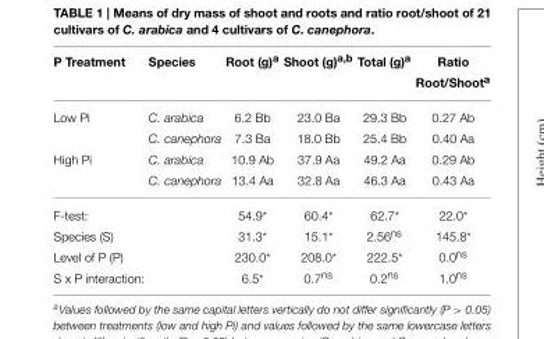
<table><thead><tr><td>P Treatment</td><td>Species</td><td>Root (g)<sup>a</sup></td><td>Shoot (g)<sup>a,b</sup></td><td>Total (g)<sup>a</sup></td><td>Ratio Root/Shoot<sup>a</sup></td></tr></thead><tbody><tr><td rowspan="2">Low Pi</td><td>C. arabica</td><td>6.2 Bb</td><td>23.0 Ba</td><td>29.3 Bb</td><td>0.27 Ab</td></tr><tr><td>C. canephora</td><td>7.3 Ba</td><td>18.0 Bb</td><td>25.4 Bb</td><td>0.40 Aa</td></tr><tr><td rowspan="2">High Pi</td><td>C. arabica</td><td>10.9 Ab</td><td>37.9 Aa</td><td>49.2 Aa</td><td>0.29 Ab</td></tr><tr><td>C. canephora</td><td>13.4 Aa</td><td>32.8 Aa</td><td>46.3 Aa</td><td>0.43 Aa</td></tr><tr><td>F-test:</td><td></td><td>54.9*</td><td>60.4*</td><td>62.7*</td><td>22.0*</td></tr><tr><td>Species (S)</td><td></td><td>31.3*</td><td>15.1*</td><td>2.56<sup>ns</sup></td><td>145.8*</td></tr><tr><td>Level of P (P)</td><td></td><td>230.0*</td><td>208.0*</td><td>222.5*</td><td>0.0<sup>ns</sup></td></tr><tr><td>S x P interaction:</td><td></td><td>6.5*</td><td>0.7<sup>ns</sup></td><td>0.2<sup>ns</sup></td><td>1.0<sup>ns</sup></td></tr></tbody></table>